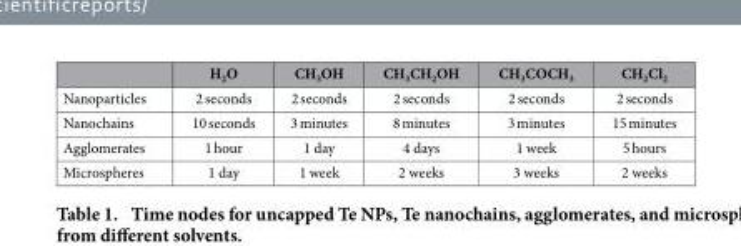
<table><thead><tr><td></td><td>H<sub>2</sub>O</td><td>CH<sub>3</sub>OH</td><td>CH<sub>3</sub>CH<sub>2</sub>OH</td><td>CH<sub>3</sub>COCH<sub>3</sub></td><td>CH<sub>2</sub>Cl<sub>2</sub></td></tr></thead><tbody><tr><td>Nanoparticles</td><td>2 seconds</td><td>2 seconds</td><td>2 seconds</td><td>2 seconds</td><td>2 seconds</td></tr><tr><td>Nanochains</td><td>10 seconds</td><td>3 minutes</td><td>8 minutes</td><td>3 minutes</td><td>15 minutes</td></tr><tr><td>Agglomerates</td><td>1 hour</td><td>1 day</td><td>4 days</td><td>1 week</td><td>5 hours</td></tr><tr><td>Microspheres</td><td>1 day</td><td>1 week</td><td>2 weeks</td><td>3 weeks</td><td>2 weeks</td></tr></tbody></table>